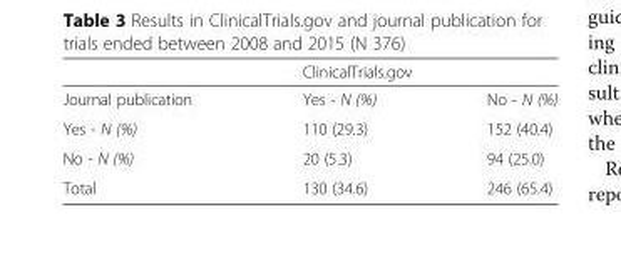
<table><thead><tr><td rowspan="2">Journal publication</td><td colspan="2">ClinicalTrials.gov</td></tr><tr><td>Yes - N (%)</td><td>No - N (%)</td></tr></thead><tbody><tr><td>Yes - N (%)</td><td>110 (29.3)</td><td>152 (40.4)</td></tr><tr><td>No - N (%)</td><td>20 (5.3)</td><td>94 (25.0)</td></tr><tr><td>Total</td><td>130 (34.6)</td><td>246 (65.4)</td></tr></tbody></table>